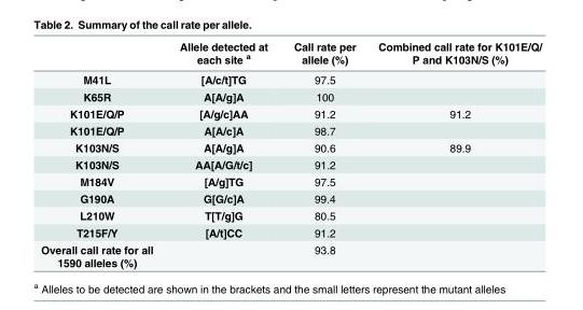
<table><thead><tr><td></td><td>Allele detected at each site <sup>a</sup></td><td>Call rate per allele (%)</td><td>Combined call rate for K101E/Q/ P and K103N/S (%)</td></tr></thead><tbody><tr><td>M41L</td><td>[A/c/t]TG</td><td>97.5</td><td></td></tr><tr><td>K65R</td><td>A[A/g]A</td><td>100</td><td></td></tr><tr><td>K101E/Q/P</td><td>[A/g/c]AA</td><td>91.2</td><td>91.2</td></tr><tr><td>K101E/Q/P</td><td>A[A/c]A</td><td>98.7</td><td></td></tr><tr><td>K103N/S</td><td>A[A/g]A</td><td>90.6</td><td>89.9</td></tr><tr><td>K103N/S</td><td>AA[A/G/t/c]</td><td>91.2</td><td></td></tr><tr><td>M184V</td><td>[A/g]TG</td><td>97.5</td><td></td></tr><tr><td>G190A</td><td>G[G/c]A</td><td>99.4</td><td></td></tr><tr><td>L210W</td><td>T[T/g]G</td><td>80.5</td><td></td></tr><tr><td>T215F/Y</td><td>[A/t]CC</td><td>91.2</td><td></td></tr><tr><td>Overall call rate for all 1590 alleles (%)</td><td></td><td>93.8</td><td></td></tr></tbody></table>